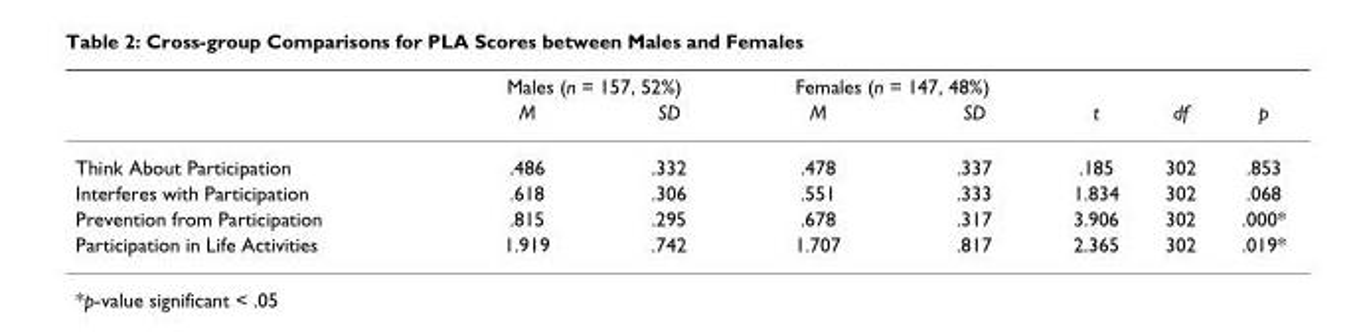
<table><thead><tr><td rowspan="2"></td><td colspan="2">Males (n = 157, 52%)</td><td colspan="2">Females (n = 147, 48%)</td><td rowspan="2">t</td><td rowspan="2">df</td><td rowspan="2">p</td></tr><tr><td>M</td><td>SD</td><td>M</td><td>SD</td></tr></thead><tbody><tr><td>Think About Participation</td><td>.486</td><td>.332</td><td>.478</td><td>.337</td><td>.185</td><td>302</td><td>.853</td></tr><tr><td>Interferes with Participation</td><td>.618</td><td>.306</td><td>.551</td><td>.333</td><td>1.834</td><td>302</td><td>.068</td></tr><tr><td>Prevention from Participation</td><td>.815</td><td>.295</td><td>.678</td><td>.317</td><td>3.906</td><td>302</td><td>.000*</td></tr><tr><td>Participation in Life Activities</td><td>1.919</td><td>.742</td><td>1.707</td><td>.817</td><td>2.365</td><td>302</td><td>.019*</td></tr></tbody></table>